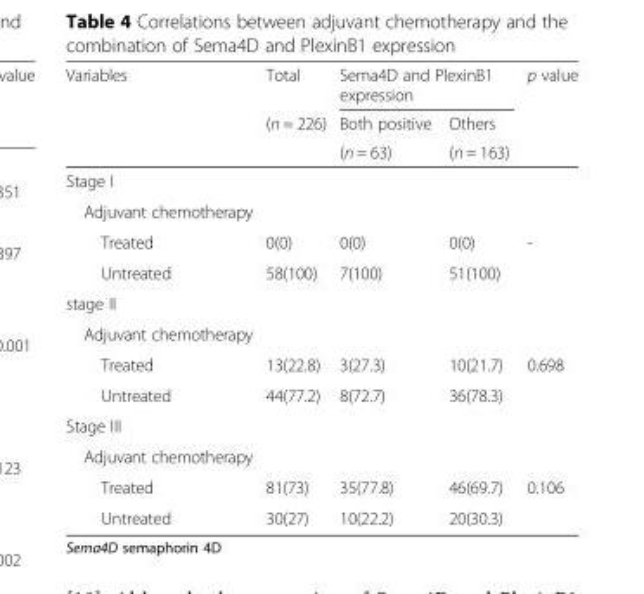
<table><thead><tr><td rowspan="3">Variables</td><td rowspan="3">Total (n = 226)</td><td colspan="2">Sema4D and PlexinB1 expression</td><td rowspan="3">p value</td></tr><tr><td rowspan="2">Both positive (n = 63)</td><td rowspan="2">Others (n = 163)</td></tr><tr></tr></thead><tbody><tr><td colspan="5">Stage I</td></tr><tr><td colspan="5">Adjuvant chemotherapy</td></tr><tr><td>Treated</td><td>0(0)</td><td>0(0)</td><td>0(0)</td><td rowspan="2">-</td></tr><tr><td>Untreated</td><td>58(100)</td><td>7(100)</td><td>51(100)</td></tr><tr><td colspan="5">stage II</td></tr><tr><td colspan="5">Adjuvant chemotherapy</td></tr><tr><td>Treated</td><td>13(22.8)</td><td>3(27.3)</td><td>10(21.7)</td><td rowspan="2">0.698</td></tr><tr><td>Untreated</td><td>44(77.2)</td><td>8(72.7)</td><td>36(78.3)</td></tr><tr><td colspan="5">Stage III</td></tr><tr><td colspan="5">Adjuvant chemotherapy</td></tr><tr><td>Treated</td><td>81(73)</td><td>35(77.8)</td><td>46(69.7)</td><td rowspan="2">0.106</td></tr><tr><td>Untreated</td><td>30(27)</td><td>10(22.2)</td><td>20(30.3)</td></tr></tbody></table>